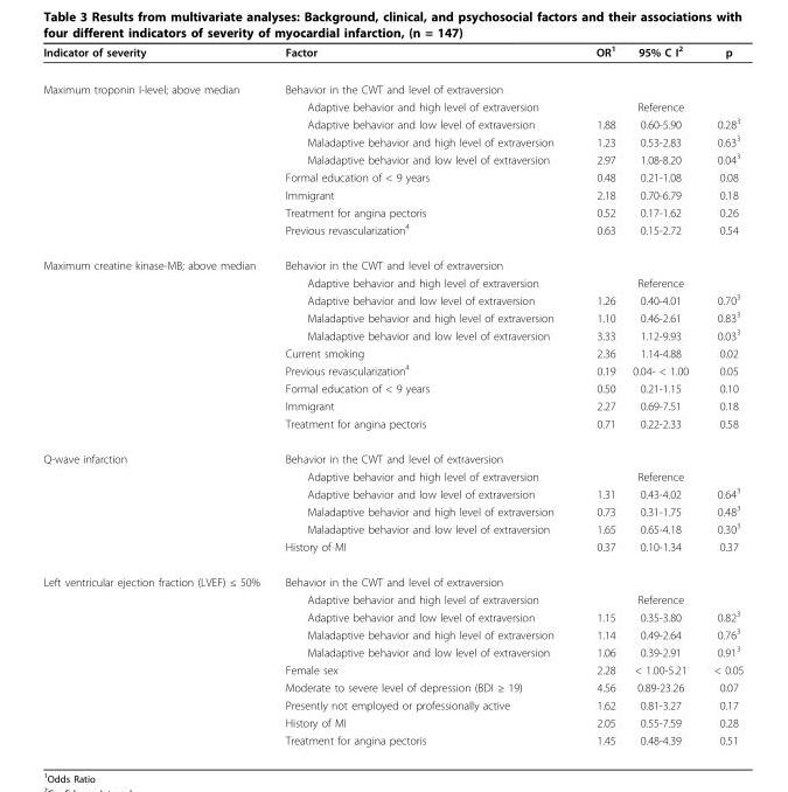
<table><thead><tr><td>Indicator of severity</td><td>Factor</td><td>OR<sup>1</sup></td><td>95% C I<sup>2</sup></td><td>p</td></tr></thead><tbody><tr><td rowspan="9">Maximum troponin I-level; above median</td><td>Behavior in the CWT and level of extraversion</td><td></td><td></td><td></td></tr><tr><td>Adaptive behavior and high level of extraversion</td><td></td><td>Reference</td><td></td></tr><tr><td>Adaptive behavior and low level of extraversion</td><td>1.88</td><td>0.60-5.90</td><td>0.28<sup>3</sup></td></tr><tr><td>Maladaptive behavior and high level of extraversion</td><td>1.23</td><td>0.53-2.83</td><td>0.63<sup>3</sup></td></tr><tr><td>Maladaptive behavior and low level of extraversion</td><td>2.97</td><td>1.08-8.20</td><td>0.04<sup>3</sup></td></tr><tr><td>Formal education of &lt; 9 years</td><td>0.48</td><td>0.21-1.08</td><td>0.08</td></tr><tr><td>Immigrant</td><td>2.18</td><td>0.70-6.79</td><td>0.18</td></tr><tr><td>Treatment for angina pectoris</td><td>0.52</td><td>0.17-1.62</td><td>0.26</td></tr><tr><td>Previous revascularization<sup>4</sup></td><td>0.63</td><td>0.15-2.72</td><td>0.54</td></tr><tr><td rowspan="10">Maximum creatine kinase-MB; above median</td><td>Behavior in the CWT and level of extraversion</td><td></td><td></td><td></td></tr><tr><td>Adaptive behavior and high level of extraversion</td><td></td><td>Reference</td><td></td></tr><tr><td>Adaptive behavior and low level of extraversion</td><td>1.26</td><td>0.40-4.01</td><td>0.70<sup>3</sup></td></tr><tr><td>Maladaptive behavior and high level of extraversion</td><td>1.10</td><td>0.46-2.61</td><td>0.83<sup>3</sup></td></tr><tr><td>Maladaptive behavior and low level of extraversion</td><td>3.33</td><td>1.12-9.93</td><td>0.03<sup>3</sup></td></tr><tr><td>Current smoking</td><td>2.36</td><td>1.14-4.88</td><td>0.02</td></tr><tr><td>Previous revascularization<sup>4</sup></td><td>0.19</td><td>0.04- &lt; 1.00</td><td>0.05</td></tr><tr><td>Formal education of &lt; 9 years</td><td>0.50</td><td>0.21-1.15</td><td>0.10</td></tr><tr><td>Immigrant</td><td>2.27</td><td>0.69-7.51</td><td>0.18</td></tr><tr><td>Treatment for angina pectoris</td><td>0.71</td><td>0.22-2.33</td><td>0.58</td></tr><tr><td rowspan="6">Q-wave infarction</td><td>Behavior in the CWT and level of extraversion</td><td></td><td></td><td></td></tr><tr><td>Adaptive behavior and high level of extraversion</td><td></td><td>Reference</td><td></td></tr><tr><td>Adaptive behavior and low level of extraversion</td><td>1.31</td><td>0.43-4.02</td><td>0.64<sup>3</sup></td></tr><tr><td>Maladaptive behavior and high level of extraversion</td><td>0.73</td><td>0.31-1.75</td><td>0.48<sup>3</sup></td></tr><tr><td>Maladaptive behavior and low level of extraversion</td><td>1.65</td><td>0.65-4.18</td><td>0.30<sup>3</sup></td></tr><tr><td>History of MI</td><td>0.37</td><td>0.10-1.34</td><td>0.37</td></tr><tr><td rowspan="10">Left ventricular ejection fraction (LVEF) ≤ 50%</td><td>Behavior in the CWT and level of extraversion</td><td></td><td></td><td></td></tr><tr><td>Adaptive behavior and high level of extraversion</td><td></td><td>Reference</td><td></td></tr><tr><td>Adaptive behavior and low level of extraversion</td><td>1.15</td><td>0.35-3.80</td><td>0.82<sup>3</sup></td></tr><tr><td>Maladaptive behavior and high level of extraversion</td><td>1.14</td><td>0.49-2.64</td><td>0.76<sup>3</sup></td></tr><tr><td>Maladaptive behavior and low level of extraversion</td><td>1.06</td><td>0.39-2.91</td><td>0.91<sup>3</sup></td></tr><tr><td>Female sex</td><td>2.28</td><td>&lt; 1.00-5.21</td><td>&lt; 0.05</td></tr><tr><td>Moderate to severe level of depression (BDI ≥ 19)</td><td>4.56</td><td>0.89-23.26</td><td>0.07</td></tr><tr><td>Presently not employed or professionally active</td><td>1.62</td><td>0.81-3.27</td><td>0.17</td></tr><tr><td>History of MI</td><td>2.05</td><td>0.55-7.59</td><td>0.28</td></tr><tr><td>Treatment for angina pectoris</td><td>1.45</td><td>0.48-4.39</td><td>0.51</td></tr></tbody></table>